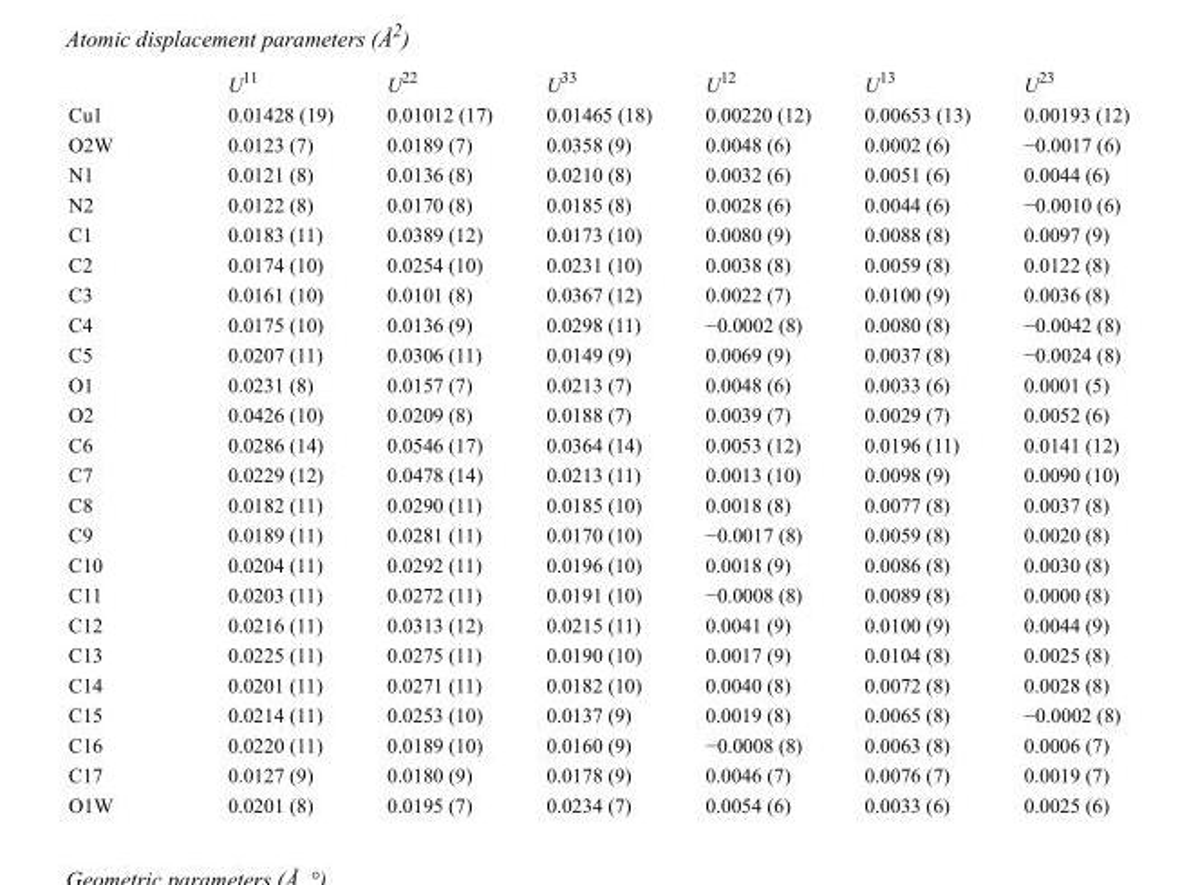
<table><thead><tr><td></td><td>U<sup>11</sup></td><td>U<sup>22</sup></td><td>U<sup>33</sup></td><td>U<sup>12</sup></td><td>U<sup>13</sup></td><td>U<sup>23</sup></td></tr></thead><tbody><tr><td>Cu1</td><td>0.01428 (19)</td><td>0.01012 (17)</td><td>0.01465 (18)</td><td>0.00220 (12)</td><td>0.00653 (13)</td><td>0.00193 (12)</td></tr><tr><td>O2W</td><td>0.0123 (7)</td><td>0.0189 (7)</td><td>0.0358 (9)</td><td>0.0048 (6)</td><td>0.0002 (6)</td><td>−0.0017 (6)</td></tr><tr><td>N1</td><td>0.0121 (8)</td><td>0.0136 (8)</td><td>0.0210 (8)</td><td>0.0032 (6)</td><td>0.0051 (6)</td><td>0.0044 (6)</td></tr><tr><td>N2</td><td>0.0122 (8)</td><td>0.0170 (8)</td><td>0.0185 (8)</td><td>0.0028 (6)</td><td>0.0044 (6)</td><td>−0.0010 (6)</td></tr><tr><td>C1</td><td>0.0183 (11)</td><td>0.0389 (12)</td><td>0.0173 (10)</td><td>0.0080 (9)</td><td>0.0088 (8)</td><td>0.0097 (9)</td></tr><tr><td>C2</td><td>0.0174 (10)</td><td>0.0254 (10)</td><td>0.0231 (10)</td><td>0.0038 (8)</td><td>0.0059 (8)</td><td>0.0122 (8)</td></tr><tr><td>C3</td><td>0.0161 (10)</td><td>0.0101 (8)</td><td>0.0367 (12)</td><td>0.0022 (7)</td><td>0.0100 (9)</td><td>0.0036 (8)</td></tr><tr><td>C4</td><td>0.0175 (10)</td><td>0.0136 (9)</td><td>0.0298 (11)</td><td>−0.0002 (8)</td><td>0.0080 (8)</td><td>−0.0042 (8)</td></tr><tr><td>C5</td><td>0.0207 (11)</td><td>0.0306 (11)</td><td>0.0149 (9)</td><td>0.0069 (9)</td><td>0.0037 (8)</td><td>−0.0024 (8)</td></tr><tr><td>O1</td><td>0.0231 (8)</td><td>0.0157 (7)</td><td>0.0213 (7)</td><td>0.0048 (6)</td><td>0.0033 (6)</td><td>0.0001 (5)</td></tr><tr><td>O2</td><td>0.0426 (10)</td><td>0.0209 (8)</td><td>0.0188 (7)</td><td>0.0039 (7)</td><td>0.0029 (7)</td><td>0.0052 (6)</td></tr><tr><td>C6</td><td>0.0286 (14)</td><td>0.0546 (17)</td><td>0.0364 (14)</td><td>0.0053 (12)</td><td>0.0196 (11)</td><td>0.0141 (12)</td></tr><tr><td>C7</td><td>0.0229 (12)</td><td>0.0478 (14)</td><td>0.0213 (11)</td><td>0.0013 (10)</td><td>0.0098 (9)</td><td>0.0090 (10)</td></tr><tr><td>C8</td><td>0.0182 (11)</td><td>0.0290 (11)</td><td>0.0185 (10)</td><td>0.0018 (8)</td><td>0.0077 (8)</td><td>0.0037 (8)</td></tr><tr><td>C9</td><td>0.0189 (11)</td><td>0.0281 (11)</td><td>0.0170 (10)</td><td>−0.0017 (8)</td><td>0.0059 (8)</td><td>0.0020 (8)</td></tr><tr><td>C10</td><td>0.0204 (11)</td><td>0.0292 (11)</td><td>0.0196 (10)</td><td>0.0018 (9)</td><td>0.0086 (8)</td><td>0.0030 (8)</td></tr><tr><td>C11</td><td>0.0203 (11)</td><td>0.0272 (11)</td><td>0.0191 (10)</td><td>−0.0008 (8)</td><td>0.0089 (8)</td><td>0.0000 (8)</td></tr><tr><td>C12</td><td>0.0216 (11)</td><td>0.0313 (12)</td><td>0.0215 (11)</td><td>0.0041 (9)</td><td>0.0100 (9)</td><td>0.0044 (9)</td></tr><tr><td>C13</td><td>0.0225 (11)</td><td>0.0275 (11)</td><td>0.0190 (10)</td><td>0.0017 (9)</td><td>0.0104 (8)</td><td>0.0025 (8)</td></tr><tr><td>C14</td><td>0.0201 (11)</td><td>0.0271 (11)</td><td>0.0182 (10)</td><td>0.0040 (8)</td><td>0.0072 (8)</td><td>0.0028 (8)</td></tr><tr><td>C15</td><td>0.0214 (11)</td><td>0.0253 (10)</td><td>0.0137 (9)</td><td>0.0019 (8)</td><td>0.0065 (8)</td><td>−0.0002 (8)</td></tr><tr><td>C16</td><td>0.0220 (11)</td><td>0.0189 (10)</td><td>0.0160 (9)</td><td>−0.0008 (8)</td><td>0.0063 (8)</td><td>0.0006 (7)</td></tr><tr><td>C17</td><td>0.0127 (9)</td><td>0.0180 (9)</td><td>0.0178 (9)</td><td>0.0046 (7)</td><td>0.0076 (7)</td><td>0.0019 (7)</td></tr><tr><td>O1W</td><td>0.0201 (8)</td><td>0.0195 (7)</td><td>0.0234 (7)</td><td>0.0054 (6)</td><td>0.0033 (6)</td><td>0.0025 (6)</td></tr></tbody></table>